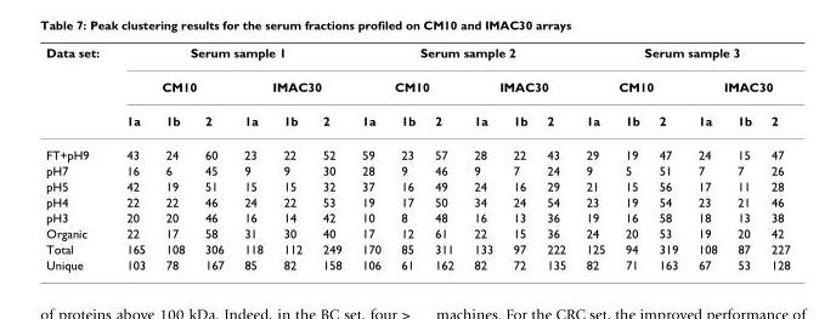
<table><thead><tr><td rowspan="3">Data set:</td><td colspan="6">Serum sample 1</td><td colspan="6">Serum sample 2</td><td colspan="6">Serum sample 3</td></tr><tr><td colspan="3">CM10</td><td colspan="3">IMAC30</td><td colspan="3">CM10</td><td colspan="3">IMAC30</td><td colspan="3">CM10</td><td colspan="3">IMAC30</td></tr><tr><td>1a</td><td>1b</td><td>2</td><td>1a</td><td>1b</td><td>2</td><td>1a</td><td>1b</td><td>2</td><td>1a</td><td>1b</td><td>2</td><td>1a</td><td>1b</td><td>2</td><td>1a</td><td>1b</td><td>2</td></tr></thead><tbody><tr><td>FT+pH9</td><td>43</td><td>24</td><td>60</td><td>23</td><td>22</td><td>52</td><td>59</td><td>23</td><td>57</td><td>28</td><td>22</td><td>43</td><td>29</td><td>19</td><td>47</td><td>24</td><td>15</td><td>47</td></tr><tr><td>pH7</td><td>16</td><td>6</td><td>45</td><td>9</td><td>9</td><td>30</td><td>28</td><td>9</td><td>46</td><td>9</td><td>7</td><td>24</td><td>9</td><td>5</td><td>51</td><td>7</td><td>7</td><td>26</td></tr><tr><td>pH5</td><td>42</td><td>19</td><td>51</td><td>15</td><td>15</td><td>32</td><td>37</td><td>16</td><td>49</td><td>24</td><td>16</td><td>29</td><td>21</td><td>15</td><td>56</td><td>17</td><td>11</td><td>28</td></tr><tr><td>pH4</td><td>22</td><td>22</td><td>46</td><td>24</td><td>22</td><td>53</td><td>19</td><td>17</td><td>50</td><td>34</td><td>24</td><td>54</td><td>23</td><td>19</td><td>54</td><td>23</td><td>21</td><td>46</td></tr><tr><td>pH3</td><td>20</td><td>20</td><td>46</td><td>16</td><td>14</td><td>42</td><td>10</td><td>8</td><td>48</td><td>16</td><td>13</td><td>36</td><td>19</td><td>16</td><td>58</td><td>18</td><td>13</td><td>38</td></tr><tr><td>Organic</td><td>22</td><td>17</td><td>58</td><td>31</td><td>30</td><td>40</td><td>17</td><td>12</td><td>61</td><td>22</td><td>15</td><td>36</td><td>24</td><td>20</td><td>53</td><td>19</td><td>20</td><td>42</td></tr><tr><td>Total</td><td>165</td><td>108</td><td>306</td><td>118</td><td>112</td><td>249</td><td>170</td><td>85</td><td>311</td><td>133</td><td>97</td><td>222</td><td>125</td><td>94</td><td>319</td><td>108</td><td>87</td><td>227</td></tr><tr><td>Unique</td><td>103</td><td>78</td><td>167</td><td>85</td><td>82</td><td>158</td><td>106</td><td>61</td><td>162</td><td>82</td><td>72</td><td>135</td><td>82</td><td>71</td><td>163</td><td>67</td><td>53</td><td>128</td></tr></tbody></table>